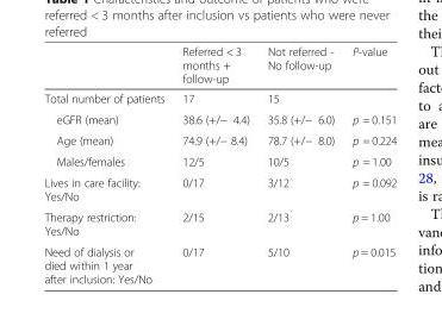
<table><thead><tr><td></td><td>Referred &lt; 3 months + follow-up</td><td>Not referred - No follow-up</td><td>P-value</td></tr></thead><tbody><tr><td>Total number of patients</td><td>17</td><td>15</td><td></td></tr><tr><td>eGFR (mean)</td><td>38.6 (+/− 4.4)</td><td>35.8 (+/− 6.0)</td><td>p = 0.151</td></tr><tr><td>Age (mean)</td><td>74.9 (+/− 8.4)</td><td>78.7 (+/− 8.0)</td><td>p = 0.224</td></tr><tr><td>Males/females</td><td>12/5</td><td>10/5</td><td>p = 1.00</td></tr><tr><td>Lives in care facility: Yes/No</td><td>0/17</td><td>3/12</td><td>p = 0.092</td></tr><tr><td>Therapy restriction: Yes/No</td><td>2/15</td><td>2/13</td><td>p = 1.00</td></tr><tr><td>Need of dialysis or died within 1 year after inclusion: Yes/No</td><td>0/17</td><td>5/10</td><td>p = 0.015</td></tr></tbody></table>